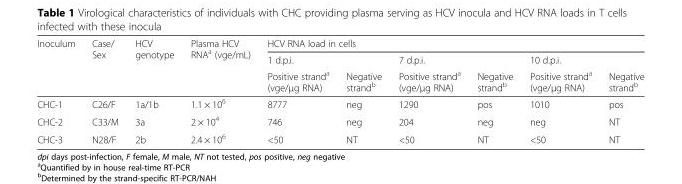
<table><thead><tr><td rowspan="3">Inoculum</td><td rowspan="3">Case/ Sex</td><td rowspan="3">HCV genotype</td><td rowspan="3">Plasma HCV RNA<sup>a</sup> (vge/mL)</td><td colspan="6">HCV RNA load in cells</td></tr><tr><td colspan="2">1 d.p.i.</td><td colspan="2">7 d.p.i.</td><td colspan="2">10 d.p.i.</td></tr><tr><td>Positive strand<sup>a</sup> (vge/μg RNA)</td><td>Negative strand<sup>b</sup></td><td>Positive strand<sup>a</sup> (vge/μg RNA)</td><td>Negative strand<sup>b</sup></td><td>Positive strand<sup>a</sup> (vge/μg RNA)</td><td>Negative strand<sup>b</sup></td></tr></thead><tbody><tr><td>CHC-1</td><td>C26/F</td><td>1a/1b</td><td>1.1 × 10<sup>6</sup></td><td>8777</td><td>neg</td><td>1290</td><td>pos</td><td>1010</td><td>pos</td></tr><tr><td>CHC-2</td><td>C33/M</td><td>3a</td><td>2 × 10<sup>4</sup></td><td>746</td><td>neg</td><td>204</td><td>neg</td><td>neg</td><td>NT</td></tr><tr><td>CHC-3</td><td>N28/F</td><td>2b</td><td>2.4 × 10<sup>6</sup></td><td>&lt;50</td><td>NT</td><td>&lt;50</td><td>NT</td><td>&lt;50</td><td>NT</td></tr></tbody></table>